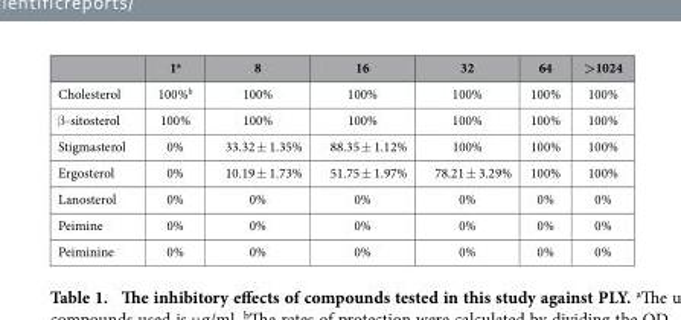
<table><thead><tr><td></td><td>1<sup>a</sup></td><td>8</td><td>16</td><td>32</td><td>64</td><td>&gt;1024</td></tr></thead><tbody><tr><td>Cholesterol</td><td>100%<sup>b</sup></td><td>100%</td><td>100%</td><td>100%</td><td>100%</td><td>100%</td></tr><tr><td>β -sitosterol</td><td>100%</td><td>100%</td><td>100%</td><td>100%</td><td>100%</td><td>100%</td></tr><tr><td>Stigmasterol</td><td>0%</td><td>33.32 ± 1.35%</td><td>88.35 ± 1.12%</td><td>100%</td><td>100%</td><td>100%</td></tr><tr><td>Ergosterol</td><td>0%</td><td>10.19 ± 1.73%</td><td>51.75 ± 1.97%</td><td>78.21 ± 3.29%</td><td>100%</td><td>100%</td></tr><tr><td>Lanosterol</td><td>0%</td><td>0%</td><td>0%</td><td>0%</td><td>0%</td><td>0%</td></tr><tr><td>Peimine</td><td>0%</td><td>0%</td><td>0%</td><td>0%</td><td>0%</td><td>0%</td></tr><tr><td>Peiminine</td><td>0%</td><td>0%</td><td>0%</td><td>0%</td><td>0%</td><td>0%</td></tr></tbody></table>